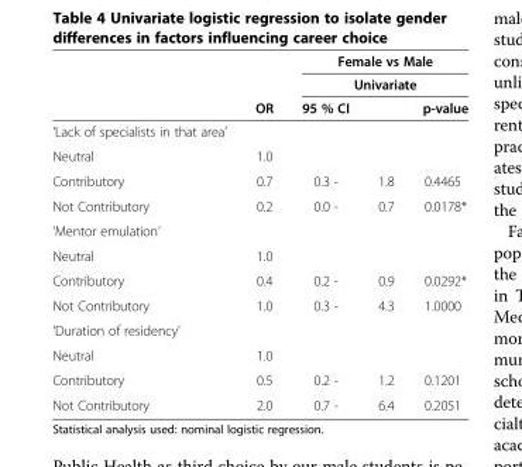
<table><thead><tr><td rowspan="3"></td><td rowspan="3">OR</td><td rowspan="2" colspan="3">Female vs Male Univariate</td></tr><tr></tr><tr><td>95 % CI</td><td></td><td>p-value</td></tr></thead><tbody><tr><td colspan="5">‘Lack of specialists in that area’</td></tr><tr><td>Neutral</td><td>1.0</td><td></td><td></td><td></td></tr><tr><td>Contributory</td><td>0.7</td><td>0.3 -</td><td>1.8</td><td>0.4465</td></tr><tr><td>Not Contributory</td><td>0.2</td><td>0.0 -</td><td>0.7</td><td>0.0178*</td></tr><tr><td colspan="5">‘Mentor emulation’</td></tr><tr><td>Neutral</td><td>1.0</td><td></td><td></td><td></td></tr><tr><td>Contributory</td><td>0.4</td><td>0.2 -</td><td>0.9</td><td>0.0292*</td></tr><tr><td>Not Contributory</td><td>1.0</td><td>0.3 -</td><td>4.3</td><td>1.0000</td></tr><tr><td colspan="5">‘Duration of residency’</td></tr><tr><td>Neutral</td><td>1.0</td><td></td><td></td><td></td></tr><tr><td>Contributory</td><td>0.5</td><td>0.2 -</td><td>1.2</td><td>0.1201</td></tr><tr><td>Not Contributory</td><td>2.0</td><td>0.7 -</td><td>6.4</td><td>0.2051</td></tr></tbody></table>